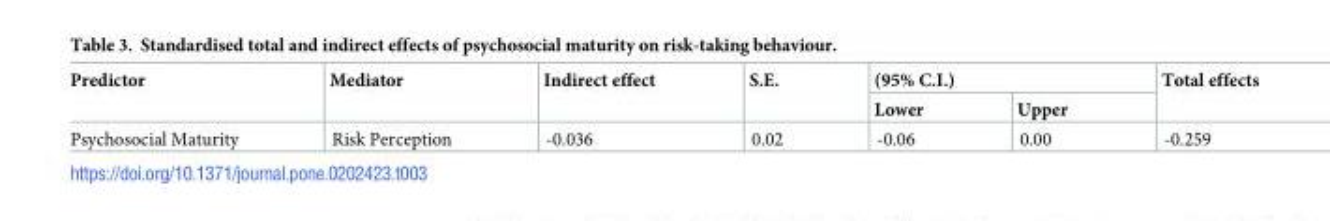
<table><thead><tr><td rowspan="2">Predictor</td><td rowspan="2">Mediator</td><td rowspan="2">Indirect effect</td><td rowspan="2">S.E.</td><td colspan="2">(95% C.I.)</td><td rowspan="2">Total effects</td></tr><tr><td>Lower</td><td>Upper</td></tr></thead><tbody><tr><td>Psychosocial Maturity</td><td>Risk Perception</td><td>-0.036</td><td>0.02</td><td>-0.06</td><td>0.00</td><td>-0.259</td></tr></tbody></table>